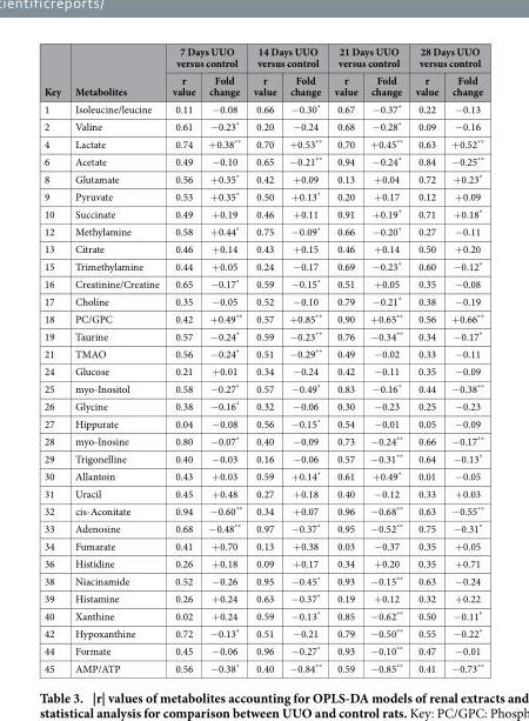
<table><thead><tr><td rowspan="2">Key</td><td rowspan="2">Metabolites</td><td colspan="2">7 Days UUO versus control</td><td colspan="2">14 Days UUO versus control</td><td colspan="2">21 Days UUO versus control</td><td colspan="2">28 Days UUO versus control</td></tr><tr><td>r value</td><td>Fold change</td><td>r value</td><td>Fold change</td><td>r value</td><td>Fold change</td><td>r value</td><td>Fold change</td></tr></thead><tbody><tr><td>1</td><td>Isoleucine/leucine</td><td>0.11</td><td>− 0.08</td><td>0.66</td><td>− 0.30*</td><td>0.67</td><td>− 0.37*</td><td>0.22</td><td>− 0.13</td></tr><tr><td>2</td><td>Valine</td><td>0.61</td><td>− 0.23*</td><td>0.20</td><td>− 0.24</td><td>0.68</td><td>− 0.28*</td><td>0.09</td><td>− 0.16</td></tr><tr><td>4</td><td>Lactate</td><td>0.74</td><td>+ 0.38**</td><td>0.70</td><td>+ 0.53**</td><td>0.70</td><td>+ 0.45**</td><td>0.63</td><td>+ 0.52**</td></tr><tr><td>6</td><td>Acetate</td><td>0.49</td><td>− 0.10</td><td>0.65</td><td>− 0.21**</td><td>0.94</td><td>− 0.24*</td><td>0.84</td><td>− 0.25**</td></tr><tr><td>8</td><td>Glutamate</td><td>0.56</td><td>+ 0.35*</td><td>0.42</td><td>+ 0.09</td><td>0.13</td><td>+ 0.04</td><td>0.72</td><td>+ 0.23*</td></tr><tr><td>9</td><td>Pyruvate</td><td>0.53</td><td>+ 0.35*</td><td>0.50</td><td>+ 0.13*</td><td>0.20</td><td>+ 0.17</td><td>0.12</td><td>+ 0.09</td></tr><tr><td>10</td><td>Succinate</td><td>0.49</td><td>+ 0.19</td><td>0.46</td><td>+ 0.11</td><td>0.91</td><td>+ 0.19*</td><td>0.71</td><td>+ 0.18*</td></tr><tr><td>12</td><td>Methylamine</td><td>0.58</td><td>+ 0.44*</td><td>0.75</td><td>− 0.09*</td><td>0.66</td><td>− 0.20*</td><td>0.27</td><td>− 0.11</td></tr><tr><td>13</td><td>Citrate</td><td>0.46</td><td>+ 0.14</td><td>0.43</td><td>+ 0.15</td><td>0.46</td><td>+ 0.14</td><td>0.50</td><td>+ 0.20</td></tr><tr><td>15</td><td>Trimethylamine</td><td>0.44</td><td>+ 0.05</td><td>0.24</td><td>− 0.17</td><td>0.69</td><td>− 0.23*</td><td>0.60</td><td>− 0.12*</td></tr><tr><td>16</td><td>Creatinine/Creatine</td><td>0.65</td><td>− 0.17*</td><td>0.59</td><td>− 0.15*</td><td>0.51</td><td>+ 0.05</td><td>0.35</td><td>− 0.08</td></tr><tr><td>17</td><td>Choline</td><td>0.35</td><td>− 0.05</td><td>0.52</td><td>− 0.10</td><td>0.79</td><td>− 0.21*</td><td>0.38</td><td>− 0.19</td></tr><tr><td>18</td><td>PC/GPC</td><td>0.42</td><td>+ 0.49**</td><td>0.57</td><td>+ 0.85**</td><td>0.90</td><td>+ 0.65**</td><td>0.56</td><td>+ 0.66**</td></tr><tr><td>19</td><td>Taurine</td><td>0.57</td><td>− 0.24*</td><td>0.59</td><td>− 0.23**</td><td>0.76</td><td>− 0.34**</td><td>0.34</td><td>− 0.17*</td></tr><tr><td>21</td><td>TMAO</td><td>0.56</td><td>− 0.24*</td><td>0.51</td><td>− 0.29**</td><td>0.49</td><td>− 0.02</td><td>0.33</td><td>− 0.11</td></tr><tr><td>24</td><td>Glucose</td><td>0.21</td><td>+ 0.01</td><td>0.34</td><td>− 0.24</td><td>0.42</td><td>− 0.11</td><td>0.35</td><td>− 0.09</td></tr><tr><td>25</td><td>myo-Inositol</td><td>0.58</td><td>− 0.27*</td><td>0.57</td><td>− 0.49*</td><td>0.83</td><td>− 0.16*</td><td>0.44</td><td>− 0.38**</td></tr><tr><td>26</td><td>Glycine</td><td>0.38</td><td>− 0.16*</td><td>0.32</td><td>− 0.06</td><td>0.30</td><td>− 0.23</td><td>0.25</td><td>− 0.23</td></tr><tr><td>27</td><td>Hippurate</td><td>0.04</td><td>− 0.08</td><td>0.56</td><td>− 0.15*</td><td>0.54</td><td>− 0.01</td><td>0.05</td><td>− 0.09</td></tr><tr><td>28</td><td>myo-Inosine</td><td>0.80</td><td>− 0.07*</td><td>0.40</td><td>− 0.09</td><td>0.73</td><td>− 0.24**</td><td>0.66</td><td>− 0.17**</td></tr><tr><td>29</td><td>Trigonelline</td><td>0.40</td><td>− 0.03</td><td>0.16</td><td>− 0.06</td><td>0.57</td><td>− 0.31**</td><td>0.64</td><td>− 0.13*</td></tr><tr><td>30</td><td>Allantoin</td><td>0.43</td><td>+ 0.03</td><td>0.59</td><td>+ 0.14*</td><td>0.61</td><td>+ 0.49*</td><td>0.01</td><td>− 0.05</td></tr><tr><td>31</td><td>Uracil</td><td>0.45</td><td>+ 0.48</td><td>0.27</td><td>+ 0.18</td><td>0.40</td><td>− 0.12</td><td>0.33</td><td>+ 0.03</td></tr><tr><td>32</td><td>cis-Aconitate</td><td>0.94</td><td>− 0.60**</td><td>0.34</td><td>+ 0.07</td><td>0.96</td><td>− 0.68**</td><td>0.63</td><td>− 0.55**</td></tr><tr><td>33</td><td>Adenosine</td><td>0.68</td><td>− 0.48**</td><td>0.97</td><td>− 0.37*</td><td>0.95</td><td>− 0.52**</td><td>0.75</td><td>− 0.31*</td></tr><tr><td>34</td><td>Fumarate</td><td>0.41</td><td>+ 0.70</td><td>0.13</td><td>+ 0.38</td><td>0.03</td><td>− 0.37</td><td>0.35</td><td>+ 0.05</td></tr><tr><td>36</td><td>Histidine</td><td>0.26</td><td>+ 0.18</td><td>0.09</td><td>+ 0.17</td><td>0.34</td><td>+ 0.20</td><td>0.35</td><td>+ 0.71</td></tr><tr><td>38</td><td>Niacinamide</td><td>0.52</td><td>− 0.26</td><td>0.95</td><td>− 0.45*</td><td>0.93</td><td>− 0.15**</td><td>0.63</td><td>− 0.24</td></tr><tr><td>39</td><td>Histamine</td><td>0.26</td><td>+ 0.24</td><td>0.63</td><td>− 0.37*</td><td>0.19</td><td>+ 0.12</td><td>0.32</td><td>+ 0.22</td></tr><tr><td>40</td><td>Xanthine</td><td>0.02</td><td>+ 0.24</td><td>0.59</td><td>− 0.13*</td><td>0.85</td><td>− 0.62**</td><td>0.50</td><td>− 0.11*</td></tr><tr><td>42</td><td>Hypoxanthine</td><td>0.72</td><td>− 0.13*</td><td>0.51</td><td>− 0.21</td><td>0.79</td><td>− 0.50**</td><td>0.55</td><td>− 0.22*</td></tr><tr><td>44</td><td>Formate</td><td>0.45</td><td>− 0.06</td><td>0.96</td><td>− 0.27*</td><td>0.93</td><td>− 0.10**</td><td>0.47</td><td>− 0.01</td></tr><tr><td>45</td><td>AMP/ATP</td><td>0.56</td><td>− 0.38*</td><td>0.40</td><td>− 0.84**</td><td>0.59</td><td>− 0.85**</td><td>0.41</td><td>− 0.73**</td></tr></tbody></table>